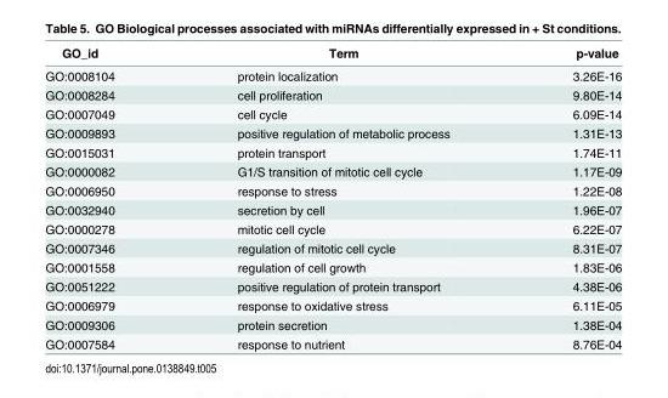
<table><thead><tr><td>GO_id</td><td>Term</td><td>p-value</td></tr></thead><tbody><tr><td>GO:0008104</td><td>protein localization</td><td>3.26E-16</td></tr><tr><td>GO:0008284</td><td>cell proliferation</td><td>9.80E-14</td></tr><tr><td>GO:0007049</td><td>cell cycle</td><td>6.09E-14</td></tr><tr><td>GO:0009893</td><td>positive regulation of metabolic process</td><td>1.31E-13</td></tr><tr><td>GO:0015031</td><td>protein transport</td><td>1.74E-11</td></tr><tr><td>GO:0000082</td><td>G1/S transition of mitotic cell cycle</td><td>1.17E-09</td></tr><tr><td>GO:0006950</td><td>response to stress</td><td>1.22E-08</td></tr><tr><td>GO:0032940</td><td>secretion by cell</td><td>1.96E-07</td></tr><tr><td>GO:0000278</td><td>mitotic cell cycle</td><td>6.22E-07</td></tr><tr><td>GO:0007346</td><td>regulation of mitotic cell cycle</td><td>8.31E-07</td></tr><tr><td>GO:0001558</td><td>regulation of cell growth</td><td>1.83E-06</td></tr><tr><td>GO:0051222</td><td>positive regulation of protein transport</td><td>4.38E-06</td></tr><tr><td>GO:0006979</td><td>response to oxidative stress</td><td>6.11E-05</td></tr><tr><td>GO:0009306</td><td>protein secretion</td><td>1.38E-04</td></tr><tr><td>GO:0007584</td><td>response to nutrient</td><td>8.76E-04</td></tr></tbody></table>